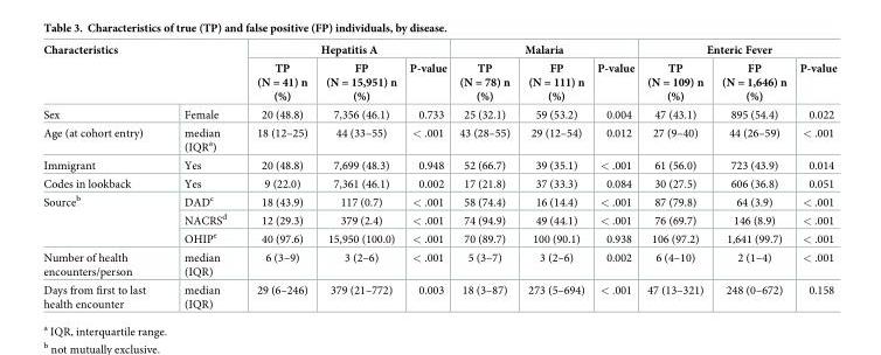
<table><thead><tr><td rowspan="2" colspan="2">Characteristics</td><td colspan="3">Hepatitis A</td><td colspan="3">Malaria</td><td colspan="3">Enteric Fever</td></tr><tr><td rowspan="2">TP (N = 41) n (%) 20 (48.8)</td><td rowspan="2">FP (N = 15,951) n (%) 7,356 (46.1)</td><td rowspan="2">P-value 0.733</td><td rowspan="2">TP (N = 78) n (%) 25 (32.1)</td><td rowspan="2">FP (N = 111) n (%) 59 (53.2)</td><td rowspan="2">P-value 0.004</td><td rowspan="2">TP (N = 109) n (%) 47 (43.1)</td><td rowspan="2">FP (N = 1,646) n (%) 895 (54.4)</td><td rowspan="2">P-value 0.022</td></tr><tr><td>Sex</td><td>Female</td></tr></thead><tbody><tr><td>Age (at cohort entry)</td><td>median (IQR<sup>a</sup>)</td><td>18 (12–25)</td><td>44 (33–55)</td><td>&lt; .001</td><td>43 (28–55)</td><td>29 (12–54)</td><td>0.012</td><td>27 (9–40)</td><td>44 (26–59)</td><td>&lt; .001</td></tr><tr><td>Immigrant</td><td>Yes</td><td>20 (48.8)</td><td>7,699 (48.3)</td><td>0.948</td><td>52 (66.7)</td><td>39 (35.1)</td><td>&lt; .001</td><td>61 (56.0)</td><td>723 (43.9)</td><td>0.014</td></tr><tr><td>Codes in lookback</td><td>Yes</td><td>9 (22.0)</td><td>7,361 (46.1)</td><td>0.002</td><td>17 (21.8)</td><td>37 (33.3)</td><td>0.084</td><td>30 (27.5)</td><td>606 (36.8)</td><td>0.051</td></tr><tr><td rowspan="3">Source<sup>b</sup></td><td>DAD<sup>c</sup></td><td>18 (43.9)</td><td>117 (0.7)</td><td>&lt; .001</td><td>58 (74.4)</td><td>16 (14.4)</td><td>&lt; .001</td><td>87 (79.8)</td><td>64 (3.9)</td><td>&lt; .001</td></tr><tr><td>NACRS<sup>d</sup></td><td>12 (29.3)</td><td>379 (2.4)</td><td>&lt; .001</td><td>74 (94.9)</td><td>49 (44.1)</td><td>&lt; .001</td><td>76 (69.7)</td><td>146 (8.9)</td><td>&lt; .001</td></tr><tr><td>OHIP<sup>e</sup></td><td>40 (97.6)</td><td>15,950 (100.0)</td><td>&lt; .001</td><td>70 (89.7)</td><td>100 (90.1)</td><td>0.938</td><td>106 (97.2)</td><td>1,641 (99.7)</td><td>&lt; .001</td></tr><tr><td>Number of health encounters/person</td><td>median (IQR)</td><td>6 (3–9)</td><td>3 (2–6)</td><td>&lt; .001</td><td>5 (3–7)</td><td>3 (2–6)</td><td>0.002</td><td>6 (4–10)</td><td>2 (1–4)</td><td>&lt; .001</td></tr><tr><td>Days from first to last health encounter</td><td>median (IQR)</td><td>29 (6–246)</td><td>379 (21–772)</td><td>0.003</td><td>18 (3–87)</td><td>273 (5–694)</td><td>&lt; .001</td><td>47 (13–321)</td><td>248 (0–672)</td><td>0.158</td></tr></tbody></table>